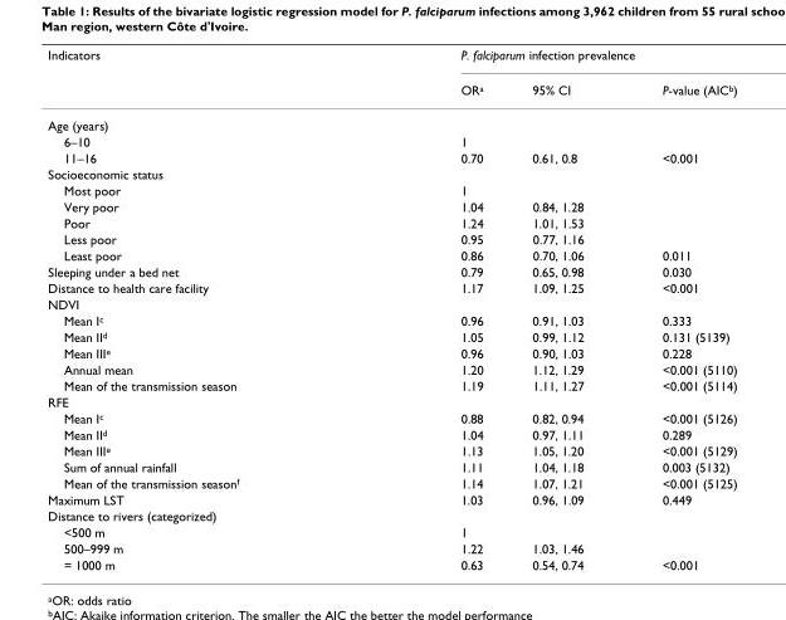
<table><thead><tr><td rowspan="2">Indicators</td><td colspan="3">P. falciparum infection prevalence</td></tr><tr><td>OR<sup>a</sup></td><td>95% CI</td><td>P-value (AIC<sup>b</sup>)</td></tr></thead><tbody><tr><td colspan="4">Age (years)</td></tr><tr><td>6–10</td><td>1</td><td></td><td></td></tr><tr><td>11–16</td><td>0.70</td><td>0.61, 0.8</td><td>&lt;0.001</td></tr><tr><td colspan="4">Socioeconomic status</td></tr><tr><td>Most poor</td><td>1</td><td></td><td></td></tr><tr><td>Very poor</td><td>1.04</td><td>0.84, 1.28</td><td></td></tr><tr><td>Poor</td><td>1.24</td><td>1.01, 1.53</td><td></td></tr><tr><td>Less poor</td><td>0.95</td><td>0.77, 1.16</td><td></td></tr><tr><td>Least poor</td><td>0.86</td><td>0.70, 1.06</td><td>0.011</td></tr><tr><td>Sleeping under a bed net</td><td>0.79</td><td>0.65, 0.98</td><td>0.030</td></tr><tr><td>Distance to health care facility</td><td>1.17</td><td>1.09, 1.25</td><td>&lt;0.001</td></tr><tr><td colspan="4">NDVI</td></tr><tr><td>Mean I<sup>c</sup></td><td>0.96</td><td>0.91, 1.03</td><td>0.333</td></tr><tr><td>Mean II<sup>d</sup></td><td>1.05</td><td>0.99, 1.12</td><td>0.131 (5139)</td></tr><tr><td>Mean III<sup>e</sup></td><td>0.96</td><td>0.90, 1.03</td><td>0.228</td></tr><tr><td>Annual mean</td><td>1.20</td><td>1.12, 1.29</td><td>&lt;0.001 (5110)</td></tr><tr><td>Mean of the transmission season</td><td>1.19</td><td>1.11, 1.27</td><td>&lt;0.001 (5114)</td></tr><tr><td colspan="4">RFE</td></tr><tr><td>Mean I<sup>c</sup></td><td>0.88</td><td>0.82, 0.94</td><td>&lt;0.001 (5126)</td></tr><tr><td>Mean II<sup>d</sup></td><td>1.04</td><td>0.97, 1.11</td><td>0.289</td></tr><tr><td>Mean III<sup>e</sup></td><td>1.13</td><td>1.05, 1.20</td><td>&lt;0.001 (5129)</td></tr><tr><td>Sum of annual rainfall</td><td>1.11</td><td>1.04, 1.18</td><td>0.003 (5132)</td></tr><tr><td>Mean of the transmission season<sup>f</sup></td><td>1.14</td><td>1.07, 1.21</td><td>&lt;0.001 (5125)</td></tr><tr><td>Maximum LST</td><td>1.03</td><td>0.96, 1.09</td><td>0.449</td></tr><tr><td colspan="4">Distance to rivers (categorized)</td></tr><tr><td>&lt;500 m</td><td>1</td><td></td><td></td></tr><tr><td>500–999 m</td><td>1.22</td><td>1.03, 1.46</td><td></td></tr><tr><td>= 1000 m</td><td>0.63</td><td>0.54, 0.74</td><td>&lt;0.001</td></tr></tbody></table>